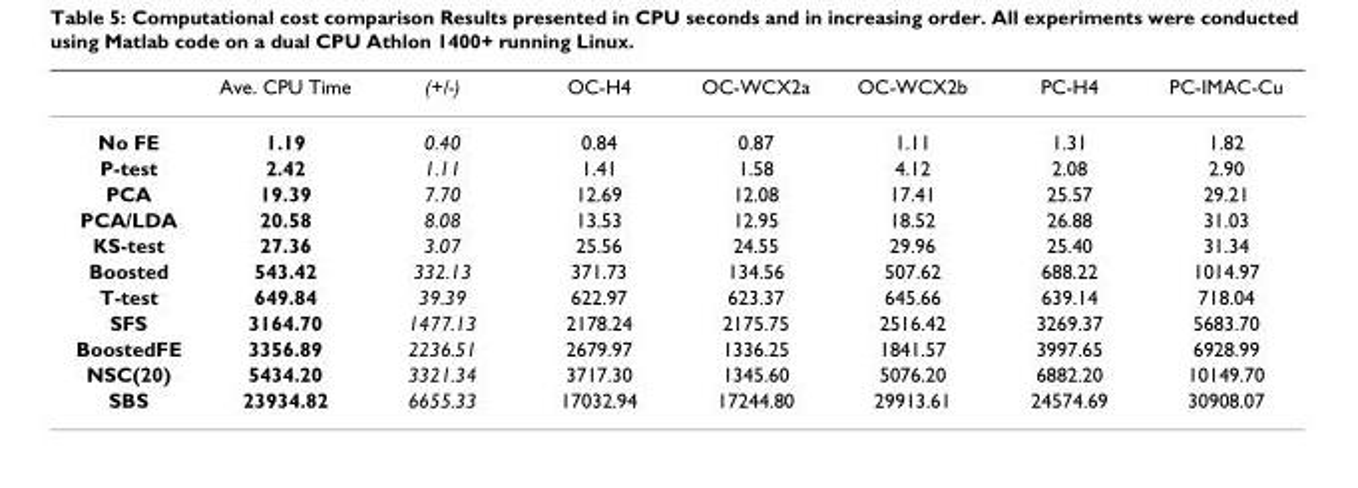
<table><thead><tr><td></td><td>Ave. CPU Time</td><td>(+/-)</td><td>OC-H4</td><td>OC-WCX2a</td><td>OC-WCX2b</td><td>PC-H4</td><td>PC-IMAC-Cu</td></tr></thead><tbody><tr><td>No FE</td><td>1.19</td><td>0.40</td><td>0.84</td><td>0.87</td><td>1.11</td><td>1.31</td><td>1.82</td></tr><tr><td>P-test</td><td>2.42</td><td>1.11</td><td>1.41</td><td>1.58</td><td>4.12</td><td>2.08</td><td>2.90</td></tr><tr><td>PCA</td><td>19.39</td><td>7.70</td><td>12.69</td><td>12.08</td><td>17.41</td><td>25.57</td><td>29.21</td></tr><tr><td>PCA/LDA</td><td>20.58</td><td>8.08</td><td>13.53</td><td>12.95</td><td>18.52</td><td>26.88</td><td>31.03</td></tr><tr><td>KS-test</td><td>27.36</td><td>3.07</td><td>25.56</td><td>24.55</td><td>29.96</td><td>25.40</td><td>31.34</td></tr><tr><td>Boosted</td><td>543.42</td><td>332.13</td><td>371.73</td><td>134.56</td><td>507.62</td><td>688.22</td><td>1014.97</td></tr><tr><td>T-test</td><td>649.84</td><td>39.39</td><td>622.97</td><td>623.37</td><td>645.66</td><td>639.14</td><td>718.04</td></tr><tr><td>SFS</td><td>3164.70</td><td>1477.13</td><td>2178.24</td><td>2175.75</td><td>2516.42</td><td>3269.37</td><td>5683.70</td></tr><tr><td>BoostedFE</td><td>3356.89</td><td>2236.51</td><td>2679.97</td><td>1336.25</td><td>1841.57</td><td>3997.65</td><td>6928.99</td></tr><tr><td>NSC(20)</td><td>5434.20</td><td>3321.34</td><td>3717.30</td><td>1345.60</td><td>5076.20</td><td>6882.20</td><td>10149.70</td></tr><tr><td>SBS</td><td>23934.82</td><td>6655.33</td><td>17032.94</td><td>17244.80</td><td>29913.61</td><td>24574.69</td><td>30908.07</td></tr></tbody></table>